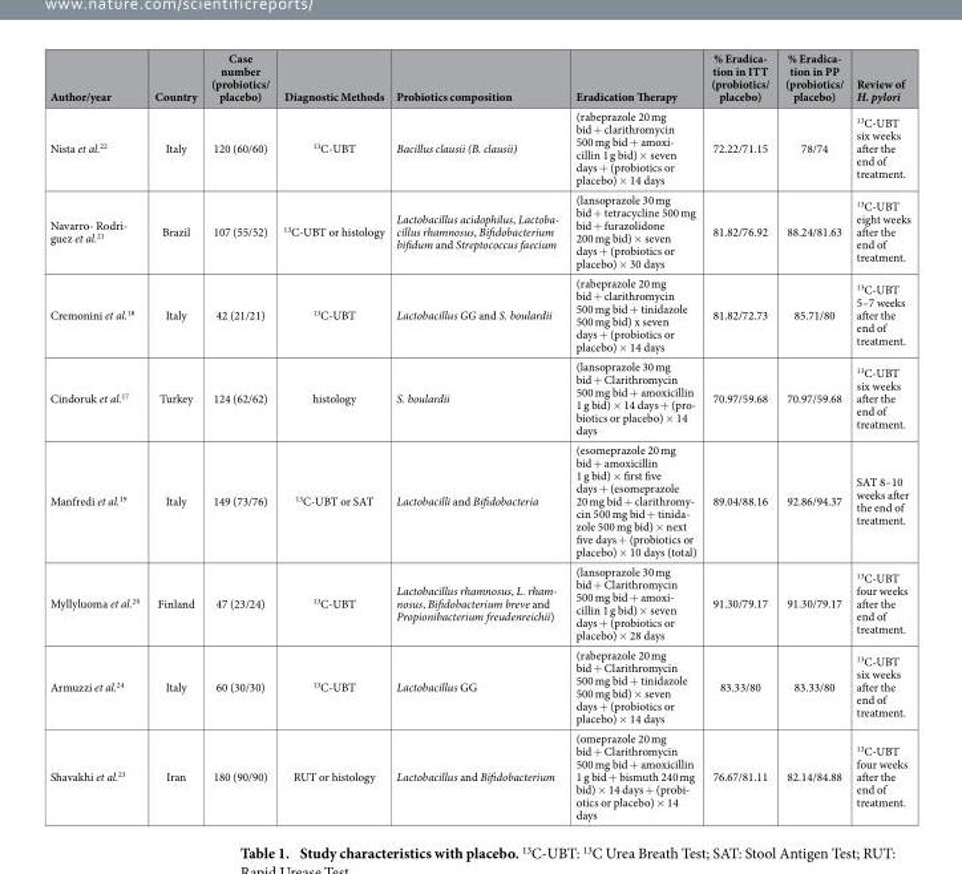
<table><thead><tr><td>Author/year</td><td>Country</td><td>Case number (probiotics/ placebo)</td><td>Diagnostic Methods</td><td>Probiotics composition</td><td>Eradication Therapy</td><td>% Eradica- tion in ITT (probiotics/ placebo)</td><td>% Eradica- tion in PP (probiotics/ placebo)</td><td>Review of H. pylori</td></tr></thead><tbody><tr><td>Nista et al.<sup>22</sup></td><td>Italy</td><td>120 (60/60)</td><td><sup>13</sup>C-UBT</td><td>Bacillus clausii (B. clausii)</td><td>(rabeprazole 20 mg bid + clarithromycin 500 mg bid + amoxi- cillin 1 g bid) × seven days + (probiotics or placebo) × 14 days</td><td>72.22/71.15</td><td>78/74</td><td><sup>13</sup>C-UBT six weeks after the end of treatment.</td></tr><tr><td>Navarro- Rodri- guez et al.21</td><td>Brazil</td><td>107 (55/52)</td><td><sup>13</sup>C-UBT or histology</td><td>Lactobacillus acidophilus, Lactoba- cillus rhamnosus, Bifidobacterium bifidum and Streptococcus faecium</td><td>(lansoprazole 30 mg bid + tetracycline 500 mg bid + furazolidone 200 mg bid) × seven days + (probiotics or placebo) × 30 days</td><td>81.82/76.92</td><td>88.24/81.63</td><td><sup>13</sup>C-UBT eight weeks after the end of treatment.</td></tr><tr><td>Cremonini et al.<sup>18</sup></td><td>Italy</td><td>42 (21/21)</td><td><sup>13</sup>C-UBT</td><td>Lactobacillus GG and S. boulardii</td><td>(rabeprazole 20 mg bid + clarithromycin 500 mg bid + tinidazole 500 mg bid) x seven days + (probiotics or placebo) × 14 days</td><td>81.82/72.73</td><td>85.71/80</td><td><sup>13</sup>C-UBT 5–7 weeks after the end of treatment.</td></tr><tr><td>Cindoruk et al.<sup>17</sup></td><td>Turkey</td><td>124 (62/62)</td><td>histology</td><td>S. boulardii</td><td>(lansoprazole 30 mg bid + Clarithromycin 500 mg bid + amoxicillin 1 g bid) × 14 days + (pro- biotics or placebo) × 14 days</td><td>70.97/59.68</td><td>70.97/59.68</td><td><sup>13</sup>C-UBT six weeks after the end of treatment.</td></tr><tr><td>Manfredi et al.<sup>19</sup></td><td>Italy</td><td>149 (73/76)</td><td><sup>13</sup>C-UBT or SAT</td><td>Lactobacilli and Bifidobacteria</td><td>(esomeprazole 20 mg bid + amoxicillin 1 g bid) × first five days + (esomeprazole 20 mg bid + clarithromy- cin 500 mg bid + tinida- zole 500 mg bid) × next five days + (probiotics or placebo) × 10 days (total)</td><td>89.04/88.16</td><td>92.86/94.37</td><td>SAT 8–10 weeks after the end of treatment.</td></tr><tr><td>Myllyluoma et al.<sup>20</sup></td><td>Finland</td><td>47 (23/24)</td><td><sup>13</sup>C-UBT</td><td>Lactobacillus rhamnosus, L. rham- nosus, Bifidobacterium breve and Propionibacterium freudenreichii)</td><td>(lansoprazole 30 mg bid + Clarithromycin 500 mg bid + amoxi- cillin 1 g bid) × seven days + (probiotics or placebo) × 28 days</td><td>91.30/79.17</td><td>91.30/79.17</td><td><sup>13</sup>C-UBT four weeks after the end of treatment.</td></tr><tr><td>Armuzzi et al.<sup>24</sup></td><td>Italy</td><td>60 (30/30)</td><td><sup>13</sup>C-UBT</td><td>Lactobacillus GG</td><td>(rabeprazole 20 mg bid + Clarithromycin 500 mg bid + tinidazole 500 mg bid) × seven days + (probiotics or placebo) × 14 days</td><td>83.33/80</td><td>83.33/80</td><td><sup>13</sup>C-UBT six weeks after the end of treatment.</td></tr><tr><td>Shavakhi et al.<sup>23</sup></td><td>Iran</td><td>180 (90/90)</td><td>RUT or histology</td><td>Lactobacillus and Bifidobacterium</td><td>(omeprazole 20 mg bid + Clarithromycin 500 mg bid + amoxicillin 1 g bid + bismuth 240 mg bid) × 14 days + (probi- otics or placebo) × 14 days</td><td>76.67/81.11</td><td>82.14/84.88</td><td><sup>13</sup>C-UBT four weeks after the end of treatment.</td></tr></tbody></table>